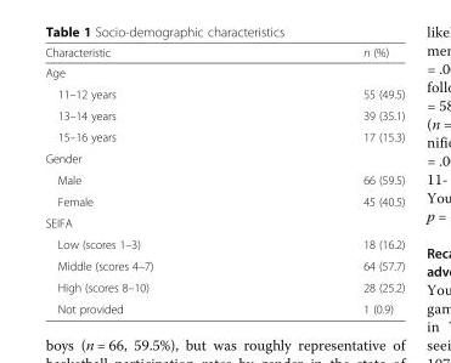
<table><thead><tr><td>Characteristic</td><td>n (%)</td></tr></thead><tbody><tr><td colspan="2">Age</td></tr><tr><td>11–12 years</td><td>55 (49.5)</td></tr><tr><td>13–14 years</td><td>39 (35.1)</td></tr><tr><td>15–16 years</td><td>17 (15.3)</td></tr><tr><td colspan="2">Gender</td></tr><tr><td>Male</td><td>66 (59.5)</td></tr><tr><td>Female</td><td>45 (40.5)</td></tr><tr><td colspan="2">SEIFA</td></tr><tr><td>Low (scores 1–3)</td><td>18 (16.2)</td></tr><tr><td>Middle (scores 4–7)</td><td>64 (57.7)</td></tr><tr><td>High (scores 8–10)</td><td>28 (25.2)</td></tr><tr><td>Not provided</td><td>1 (0.9)</td></tr></tbody></table>